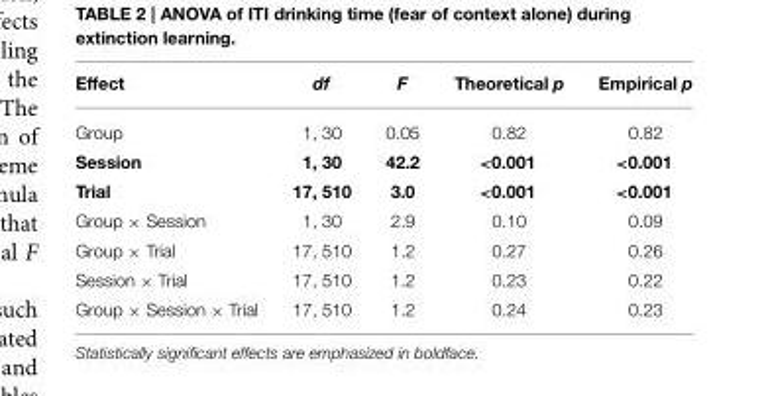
<table><thead><tr><td>Effect</td><td>df</td><td>F</td><td>Theoretical p</td><td>Empirical p</td></tr></thead><tbody><tr><td>Group</td><td>1, 30</td><td>0.05</td><td>0.82</td><td>0.82</td></tr><tr><td>Session</td><td>1, 30</td><td>42.2</td><td>&lt;0.001</td><td>&lt;0.001</td></tr><tr><td>Trial</td><td>17, 510</td><td>3.0</td><td>&lt;0.001</td><td>&lt;0.001</td></tr><tr><td>Group × Session</td><td>1, 30</td><td>2.9</td><td>0.10</td><td>0.09</td></tr><tr><td>Group × Trial</td><td>17, 510</td><td>1.2</td><td>0.27</td><td>0.26</td></tr><tr><td>Session × Trial</td><td>17, 510</td><td>1.2</td><td>0.23</td><td>0.22</td></tr><tr><td>Group × Session × Trial</td><td>17, 510</td><td>1.2</td><td>0.24</td><td>0.23</td></tr></tbody></table>